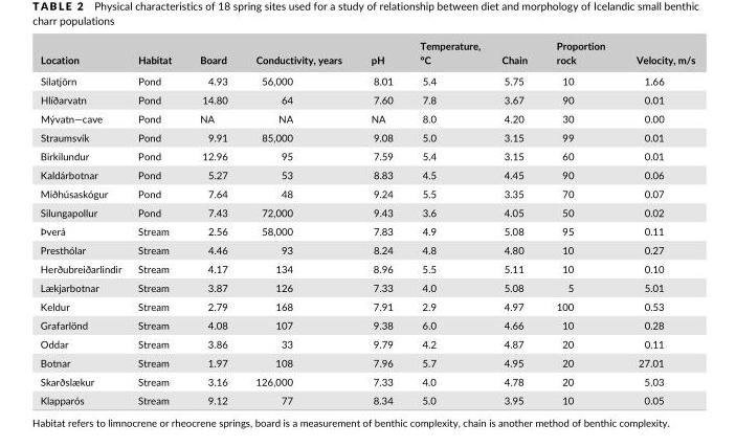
<table><thead><tr><td>Location</td><td>Habitat</td><td>Board</td><td>Conductivity, years</td><td>pH</td><td>Temperature, °C</td><td>Chain</td><td>Proportion rock</td><td>Velocity, m/s</td></tr></thead><tbody><tr><td>Sílatjörn</td><td>Pond</td><td>4.93</td><td>56,000</td><td>8.01</td><td>5.4</td><td>5.75</td><td>10</td><td>1.66</td></tr><tr><td>Hlíðarvatn</td><td>Pond</td><td>14.80</td><td>64</td><td>7.60</td><td>7.8</td><td>3.67</td><td>90</td><td>0.01</td></tr><tr><td>Mývatn—cave</td><td>Pond</td><td>NA</td><td>NA</td><td>NA</td><td>8.0</td><td>4.20</td><td>30</td><td>0.00</td></tr><tr><td>Straumsvík</td><td>Pond</td><td>9.91</td><td>85,000</td><td>9.08</td><td>5.0</td><td>3.15</td><td>99</td><td>0.01</td></tr><tr><td>Birkilundur</td><td>Pond</td><td>12.96</td><td>95</td><td>7.59</td><td>5.4</td><td>3.15</td><td>60</td><td>0.01</td></tr><tr><td>Kaldárbotnar</td><td>Pond</td><td>5.27</td><td>53</td><td>8.83</td><td>4.5</td><td>4.45</td><td>90</td><td>0.06</td></tr><tr><td>Miðhúsaskógur</td><td>Pond</td><td>7.64</td><td>48</td><td>9.24</td><td>5.5</td><td>3.35</td><td>70</td><td>0.07</td></tr><tr><td>Silungapollur</td><td>Pond</td><td>7.43</td><td>72,000</td><td>9.43</td><td>3.6</td><td>4.05</td><td>50</td><td>0.02</td></tr><tr><td>Þverá</td><td>Stream</td><td>2.56</td><td>58,000</td><td>7.83</td><td>4.9</td><td>5.08</td><td>95</td><td>0.11</td></tr><tr><td>Presthólar</td><td>Stream</td><td>4.46</td><td>93</td><td>8.24</td><td>4.8</td><td>4.80</td><td>10</td><td>0.27</td></tr><tr><td>Herðubreiðarlindir</td><td>Stream</td><td>4.17</td><td>134</td><td>8.96</td><td>5.5</td><td>5.11</td><td>10</td><td>0.10</td></tr><tr><td>Lækjarbotnar</td><td>Stream</td><td>3.87</td><td>126</td><td>7.33</td><td>4.0</td><td>5.08</td><td>5</td><td>5.01</td></tr><tr><td>Keldur</td><td>Stream</td><td>2.79</td><td>168</td><td>7.91</td><td>2.9</td><td>4.97</td><td>100</td><td>0.53</td></tr><tr><td>Grafarlönd</td><td>Stream</td><td>4.08</td><td>107</td><td>9.38</td><td>6.0</td><td>4.66</td><td>10</td><td>0.28</td></tr><tr><td>Oddar</td><td>Stream</td><td>3.86</td><td>33</td><td>9.79</td><td>4.2</td><td>4.87</td><td>20</td><td>0.11</td></tr><tr><td>Botnar</td><td>Stream</td><td>1.97</td><td>108</td><td>7.96</td><td>5.7</td><td>4.95</td><td>20</td><td>27.01</td></tr><tr><td>Skarðslækur</td><td>Stream</td><td>3.16</td><td>126,000</td><td>7.33</td><td>4.0</td><td>4.78</td><td>20</td><td>5.03</td></tr><tr><td>Klapparós</td><td>Stream</td><td>9.12</td><td>77</td><td>8.34</td><td>5.0</td><td>3.95</td><td>10</td><td>0.05</td></tr></tbody></table>